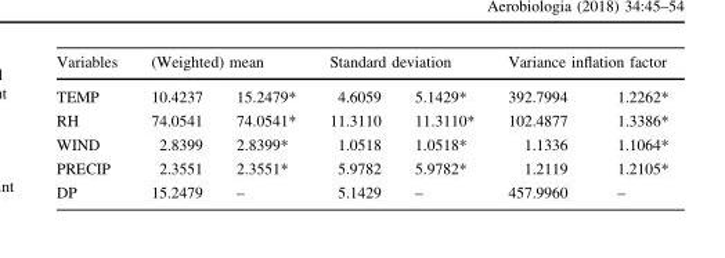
<table><thead><tr><td rowspan="2">Variables TEMP</td><td colspan="2">(Weighted) mean</td><td colspan="2">Standard deviation</td><td colspan="2">Variance inflation factor</td></tr><tr><td>10.4237</td><td>15.2479*</td><td>4.6059</td><td>5.1429*</td><td>392.7994</td><td>1.2262*</td></tr></thead><tbody><tr><td>RH</td><td>74.0541</td><td>74.0541*</td><td>11.3110</td><td>11.3110*</td><td>102.4877</td><td>1.3386*</td></tr><tr><td>WIND</td><td>2.8399</td><td>2.8399*</td><td>1.0518</td><td>1.0518*</td><td>1.1336</td><td>1.1064*</td></tr><tr><td>PRECIP</td><td>2.3551</td><td>2.3551*</td><td>5.9782</td><td>5.9782*</td><td>1.2119</td><td>1.2105*</td></tr><tr><td>DP</td><td>15.2479</td><td>–</td><td>5.1429</td><td>–</td><td>457.9960</td><td>–</td></tr></tbody></table>